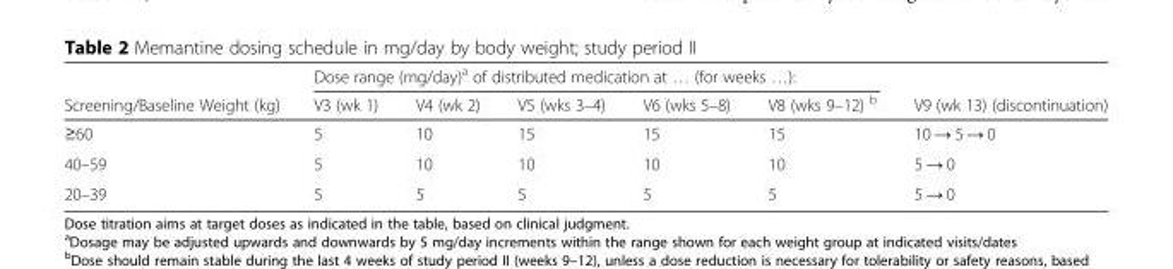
<table><thead><tr><td rowspan="2">Screening/Baseline Weight (kg)</td><td colspan="5">Dose range (mg/day)<sup>a</sup> of distributed medication at … (for weeks …):</td><td rowspan="2">V9 (wk 13) (discontinuation)</td></tr><tr><td>V3 (wk 1)</td><td>V4 (wk 2)</td><td>V5 (wks 3–4)</td><td>V6 (wks 5–8)</td><td>V8 (wks 9–12) <sup>b</sup></td></tr></thead><tbody><tr><td>≥60</td><td>5</td><td>10</td><td>15</td><td>15</td><td>15</td><td>10 → 5 → 0</td></tr><tr><td>40–59</td><td>5</td><td>10</td><td>10</td><td>10</td><td>10</td><td>5 → 0</td></tr><tr><td>20–39</td><td>5</td><td>5</td><td>5</td><td>5</td><td>5</td><td>5 → 0</td></tr></tbody></table>